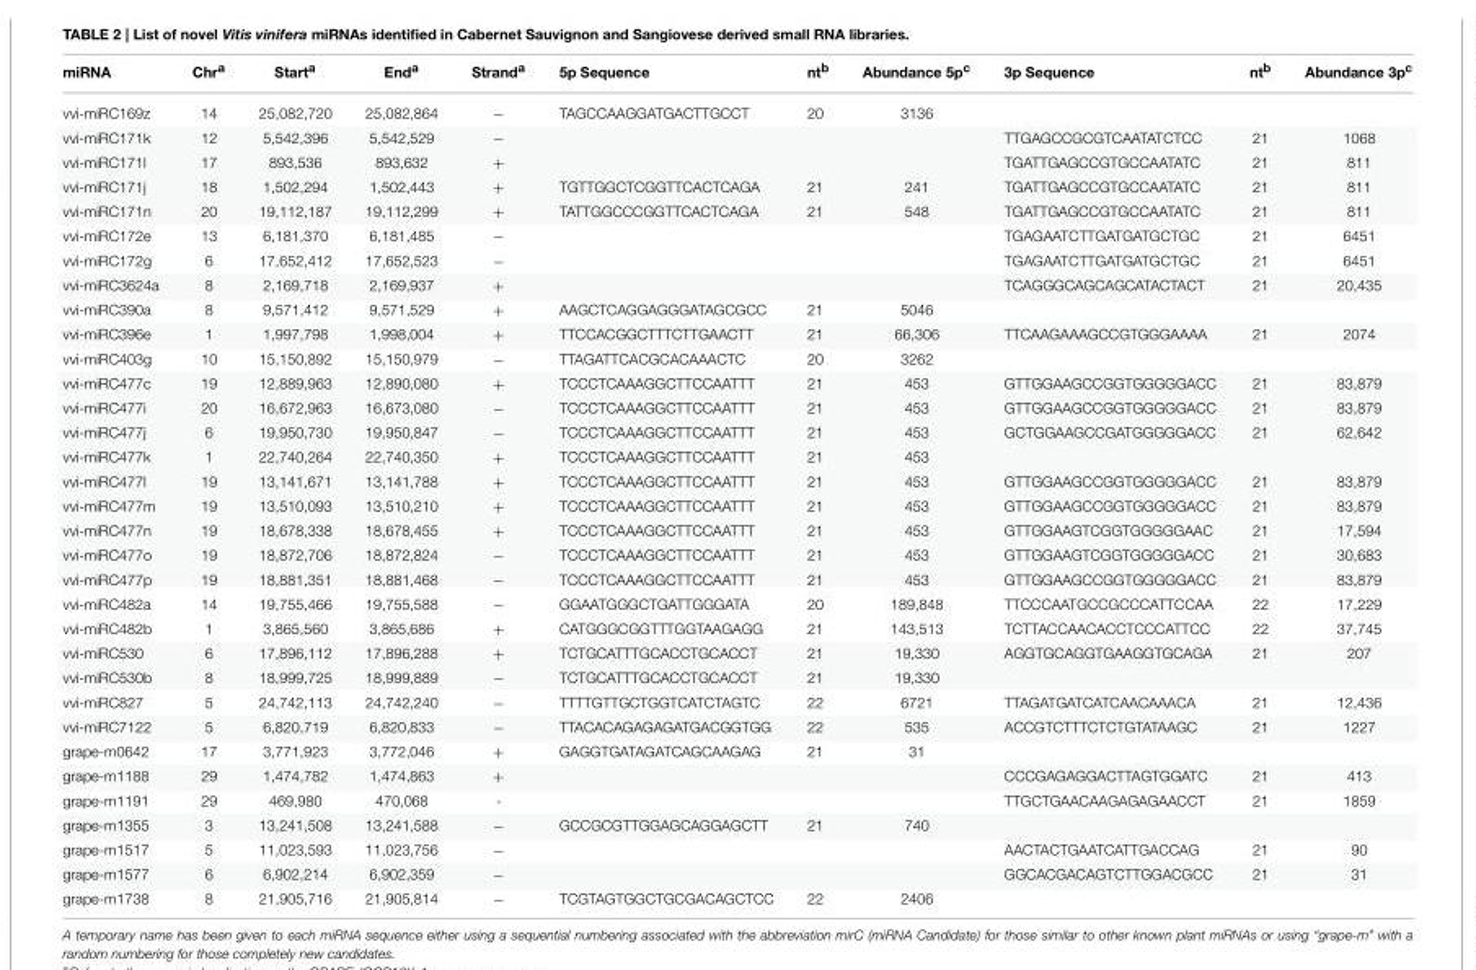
<table><thead><tr><td>miRNA</td><td>Chr<sup>a</sup></td><td>Start<sup>a</sup></td><td>End<sup>a</sup></td><td>Strand<sup>a</sup></td><td>5p Sequence</td><td>nt<sup>b</sup></td><td>Abundance 5p<sup>c</sup></td><td>3p Sequence</td><td>nt<sup>b</sup></td><td>Abundance 3p<sup>c</sup></td></tr></thead><tbody><tr><td>vvi-miRC169z</td><td>14</td><td>25,082,720</td><td>25,082,864</td><td>−</td><td>TAGCCAAGGATGACTTGCCT</td><td>20</td><td>3136</td><td></td><td></td><td></td></tr><tr><td>vvi-miRC171k</td><td>12</td><td>5,542,396</td><td>5,542,529</td><td>−</td><td></td><td></td><td></td><td>TTGAGCCGCGTCAATATCTCC</td><td>21</td><td>1068</td></tr><tr><td>vvi-miRC171l</td><td>17</td><td>893,536</td><td>893,632</td><td>+</td><td></td><td></td><td></td><td>TGATTGAGCCGTGCCAATATC</td><td>21</td><td>811</td></tr><tr><td>vvi-miRC171j</td><td>18</td><td>1,502,294</td><td>1,502,443</td><td>+</td><td>TGTTGGCTCGGTTCACTCAGA</td><td>21</td><td>241</td><td>TGATTGAGCCGTGCCAATATC</td><td>21</td><td>811</td></tr><tr><td>vvi-miRC171n</td><td>20</td><td>19,112,187</td><td>19,112,299</td><td>+</td><td>TATTGGCCCGGTTCACTCAGA</td><td>21</td><td>548</td><td>TGATTGAGCCGTGCCAATATC</td><td>21</td><td>811</td></tr><tr><td>vvi-miRC172e</td><td>13</td><td>6,181,370</td><td>6,181,485</td><td>−</td><td></td><td></td><td></td><td>TGAGAATCTTGATGATGCTGC</td><td>21</td><td>6451</td></tr><tr><td>vvi-miRC172g</td><td>6</td><td>17,652,412</td><td>17,652,523</td><td>−</td><td></td><td></td><td></td><td>TGAGAATCTTGATGATGCTGC</td><td>21</td><td>6451</td></tr><tr><td>vvi-miRC3624a</td><td>8</td><td>2,169,718</td><td>2,169,937</td><td>+</td><td></td><td></td><td></td><td>TCAGGGCAGCAGCATACTACT</td><td>21</td><td>20,435</td></tr><tr><td>vvi-miRC390a</td><td>8</td><td>9,571,412</td><td>9,571,529</td><td>+</td><td>AAGCTCAGGAGGGATAGCGCC</td><td>21</td><td>5046</td><td></td><td></td><td></td></tr><tr><td>vvi-miRC396e</td><td>1</td><td>1,997,798</td><td>1,998,004</td><td>+</td><td>TTCCACGGCTTTCTTGAACTT</td><td>21</td><td>66,306</td><td>TTCAAGAAAGCCGTGGGAAAA</td><td>21</td><td>2074</td></tr><tr><td>vvi-miRC403g</td><td>10</td><td>15,150,892</td><td>15,150,979</td><td>−</td><td>TTAGATTCACGCACAAACTC</td><td>20</td><td>3262</td><td></td><td></td><td></td></tr><tr><td>vvi-miRC477c</td><td>19</td><td>12,889,963</td><td>12,890,080</td><td>+</td><td>TCCCTCAAAGGCTTCCAATTT</td><td>21</td><td>453</td><td>GTTGGAAGCCGGTGGGGGACC</td><td>21</td><td>83,879</td></tr><tr><td>vvi-miRC477i</td><td>20</td><td>16,672,963</td><td>16,673,080</td><td>−</td><td>TCCCTCAAAGGCTTCCAATTT</td><td>21</td><td>453</td><td>GTTGGAAGCCGGTGGGGGACC</td><td>21</td><td>83,879</td></tr><tr><td>vvi-miRC477j</td><td>6</td><td>19,950,730</td><td>19,950,847</td><td>−</td><td>TCCCTCAAAGGCTTCCAATTT</td><td>21</td><td>453</td><td>GCTGGAAGCCGATGGGGGACC</td><td>21</td><td>62,642</td></tr><tr><td>vvi-miRC477k</td><td>1</td><td>22,740,264</td><td>22,740,350</td><td>+</td><td>TCCCTCAAAGGCTTCCAATTT</td><td>21</td><td>453</td><td></td><td></td><td></td></tr><tr><td>vvi-miRC477l</td><td>19</td><td>13,141,671</td><td>13,141,788</td><td>+</td><td>TCCCTCAAAGGCTTCCAATTT</td><td>21</td><td>453</td><td>GTTGGAAGCCGGTGGGGGACC</td><td>21</td><td>83,879</td></tr><tr><td>vvi-miRC477m</td><td>19</td><td>13,510,093</td><td>13,510,210</td><td>+</td><td>TCCCTCAAAGGCTTCCAATTT</td><td>21</td><td>453</td><td>GTTGGAAGCCGGTGGGGGACC</td><td>21</td><td>83,879</td></tr><tr><td>vvi-miRC477n</td><td>19</td><td>18,678,338</td><td>18,678,455</td><td>+</td><td>TCCCTCAAAGGCTTCCAATTT</td><td>21</td><td>453</td><td>GTTGGAAGTCGGTGGGGGAAC</td><td>21</td><td>17,594</td></tr><tr><td>vvi-miRC477o</td><td>19</td><td>18,872,706</td><td>18,872,824</td><td>−</td><td>TCCCTCAAAGGCTTCCAATTT</td><td>21</td><td>453</td><td>GTTGGAAGTCGGTGGGGGACC</td><td>21</td><td>30,683</td></tr><tr><td>vvi-miRC477p</td><td>19</td><td>18,881,351</td><td>18,881,468</td><td>−</td><td>TCCCTCAAAGGCTTCCAATTT</td><td>21</td><td>453</td><td>GTTGGAAGCCGGTGGGGGACC</td><td>21</td><td>83,879</td></tr><tr><td>vvi-miRC482a</td><td>14</td><td>19,755,466</td><td>19,755,588</td><td>−</td><td>GGAATGGGCTGATTGGGATA</td><td>20</td><td>189,848</td><td>TTCCCAATGCCGCCCATTCCAA</td><td>22</td><td>17,229</td></tr><tr><td>vvi-miRC482b</td><td>1</td><td>3,865,560</td><td>3,865,686</td><td>+</td><td>CATGGGCGGTTTGGTAAGAGG</td><td>21</td><td>143,513</td><td>TCTTACCAACACCTCCCATTCC</td><td>22</td><td>37,745</td></tr><tr><td>vvi-miRC530</td><td>6</td><td>17,896,112</td><td>17,896,288</td><td>+</td><td>TCTGCATTTGCACCTGCACCT</td><td>21</td><td>19,330</td><td>AGGTGCAGGTGAAGGTGCAGA</td><td>21</td><td>207</td></tr><tr><td>vvi-miRC530b</td><td>8</td><td>18,999,725</td><td>18,999,889</td><td>−</td><td>TCTGCATTTGCACCTGCACCT</td><td>21</td><td>19,330</td><td></td><td></td><td></td></tr><tr><td>vvi-miRC827</td><td>5</td><td>24,742,113</td><td>24,742,240</td><td>−</td><td>TTTTGTTGCTGGTCATCTAGTC</td><td>22</td><td>6721</td><td>TTAGATGATCATCAACAAACA</td><td>21</td><td>12,436</td></tr><tr><td>vvi-miRC7122</td><td>5</td><td>6,820,719</td><td>6,820,833</td><td>−</td><td>TTACACAGAGAGATGACGGTGG</td><td>22</td><td>535</td><td>ACCGTCTTTCTCTGTATAAGC</td><td>21</td><td>1227</td></tr><tr><td>grape-m0642</td><td>17</td><td>3,771,923</td><td>3,772,046</td><td>+</td><td>GAGGTGATAGATCAGCAAGAG</td><td>21</td><td>31</td><td></td><td></td><td></td></tr><tr><td>grape-m1188</td><td>29</td><td>1,474,782</td><td>1,474,863</td><td>+</td><td></td><td></td><td></td><td>CCCGAGAGGACTTAGTGGATC</td><td>21</td><td>413</td></tr><tr><td>grape-m1191</td><td>29</td><td>469,980</td><td>470,068</td><td>-</td><td></td><td></td><td></td><td>TTGCTGAACAAGAGAGAACCT</td><td>21</td><td>1859</td></tr><tr><td>grape-m1355</td><td>3</td><td>13,241,508</td><td>13,241,588</td><td>−</td><td>GCCGCGTTGGAGCAGGAGCTT</td><td>21</td><td>740</td><td></td><td></td><td></td></tr><tr><td>grape-m1517</td><td>5</td><td>11,023,593</td><td>11,023,756</td><td>−</td><td></td><td></td><td></td><td>AACTACTGAATCATTGACCAG</td><td>21</td><td>90</td></tr><tr><td>grape-m1577</td><td>6</td><td>6,902,214</td><td>6,902,359</td><td>−</td><td></td><td></td><td></td><td>GGCACGACAGTCTTGGACGCC</td><td>21</td><td>31</td></tr><tr><td>grape-m1738</td><td>8</td><td>21,905,716</td><td>21,905,814</td><td>−</td><td>TCGTAGTGGCTGCGACAGCTCC</td><td>22</td><td>2406</td><td></td><td></td><td></td></tr></tbody></table>